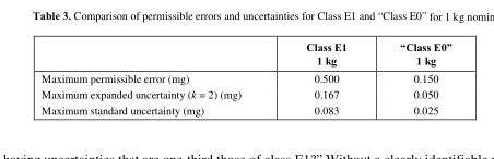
<table><thead><tr><td></td><td>Class E1 1 kg</td><td>“Class E0” 1 kg</td></tr></thead><tbody><tr><td>Maximum permissible error (mg)</td><td>0.500</td><td>0.150</td></tr><tr><td>Maximum expanded uncertainty (k = 2) (mg)</td><td>0.167</td><td>0.050</td></tr><tr><td>Maximum standard uncertainty (mg)</td><td>0.083</td><td>0.025</td></tr></tbody></table>